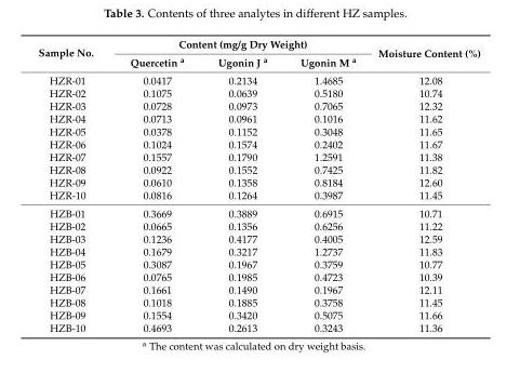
<table><thead><tr><td rowspan="2">Sample No.</td><td colspan="3">Content (mg/g Dry Weight)</td><td rowspan="2">Moisture Content (%)</td></tr><tr><td>Quercetin <sup>a</sup></td><td>Ugonin J <sup>a</sup></td><td>Ugonin M <sup>a</sup></td></tr></thead><tbody><tr><td>HZR-01</td><td>0.0417</td><td>0.2134</td><td>1.4685</td><td>12.08</td></tr><tr><td>HZR-02</td><td>0.1075</td><td>0.0639</td><td>0.5180</td><td>10.74</td></tr><tr><td>HZR-03</td><td>0.0728</td><td>0.0973</td><td>0.7065</td><td>12.32</td></tr><tr><td>HZR-04</td><td>0.0713</td><td>0.0961</td><td>0.1016</td><td>11.62</td></tr><tr><td>HZR-05</td><td>0.0378</td><td>0.1152</td><td>0.3048</td><td>11.65</td></tr><tr><td>HZR-06</td><td>0.1024</td><td>0.1574</td><td>0.2402</td><td>11.67</td></tr><tr><td>HZR-07</td><td>0.1557</td><td>0.1790</td><td>1.2591</td><td>11.38</td></tr><tr><td>HZR-08</td><td>0.0922</td><td>0.1552</td><td>0.7425</td><td>11.82</td></tr><tr><td>HZR-09</td><td>0.0610</td><td>0.1358</td><td>0.8184</td><td>12.60</td></tr><tr><td>HZR-10</td><td>0.0816</td><td>0.1264</td><td>0.3987</td><td>11.45</td></tr><tr><td>HZB-01</td><td>0.3669</td><td>0.3889</td><td>0.6915</td><td>10.71</td></tr><tr><td>HZB-02</td><td>0.0665</td><td>0.1356</td><td>0.6256</td><td>11.22</td></tr><tr><td>HZB-03</td><td>0.1236</td><td>0.4177</td><td>0.4005</td><td>12.59</td></tr><tr><td>HZB-04</td><td>0.1679</td><td>0.3217</td><td>1.2737</td><td>11.83</td></tr><tr><td>HZB-05</td><td>0.3087</td><td>0.1967</td><td>0.3759</td><td>10.77</td></tr><tr><td>HZB-06</td><td>0.0765</td><td>0.1985</td><td>0.4723</td><td>10.39</td></tr><tr><td>HZB-07</td><td>0.1661</td><td>0.1490</td><td>0.1967</td><td>12.11</td></tr><tr><td>HZB-08</td><td>0.1018</td><td>0.1885</td><td>0.3758</td><td>11.45</td></tr><tr><td>HZB-09</td><td>0.1554</td><td>0.3420</td><td>0.5075</td><td>11.66</td></tr><tr><td>HZB-10</td><td>0.4693</td><td>0.2613</td><td>0.3243</td><td>11.36</td></tr></tbody></table>